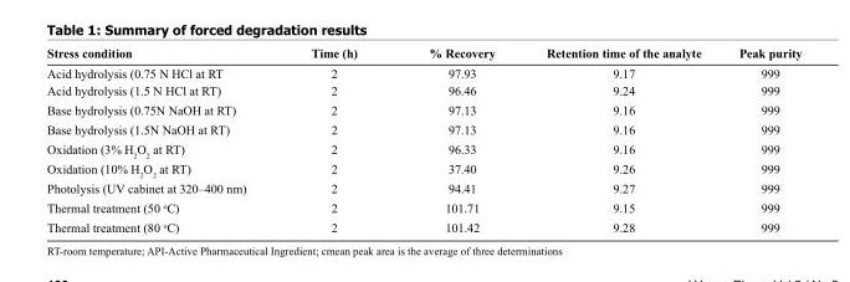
<table><thead><tr><td>Stress condition</td><td>Time (h)</td><td>% Recovery</td><td>Retention time of the analyte</td><td>Peak purity</td></tr></thead><tbody><tr><td>Acid hydrolysis (0.75 N HCl at RT</td><td>2</td><td>97.93</td><td>9.17</td><td>999</td></tr><tr><td>Acid hydrolysis (1.5 N HCl at RT)</td><td>2</td><td>96.46</td><td>9.24</td><td>999</td></tr><tr><td>Base hydrolysis (0.75N NaOH at RT)</td><td>2</td><td>97.13</td><td>9.16</td><td>999</td></tr><tr><td>Base hydrolysis (1.5N NaOH at RT)</td><td>2</td><td>97.13</td><td>9.16</td><td>999</td></tr><tr><td>Oxidation (3% H<sub>2</sub>O<sub>2</sub> at RT)</td><td>2</td><td>96.33</td><td>9.16</td><td>999</td></tr><tr><td>Oxidation (10% H<sub>2</sub>O<sub>2</sub> at RT)</td><td>2</td><td>37.40</td><td>9.26</td><td>999</td></tr><tr><td>Photolysis (UV cabinet at 320–400 nm)</td><td>2</td><td>94.41</td><td>9.27</td><td>999</td></tr><tr><td>Thermal treatment (50 °C)</td><td>2</td><td>101.71</td><td>9.15</td><td>999</td></tr><tr><td>Thermal treatment (80 °C)</td><td>2</td><td>101.42</td><td>9.28</td><td>999</td></tr></tbody></table>